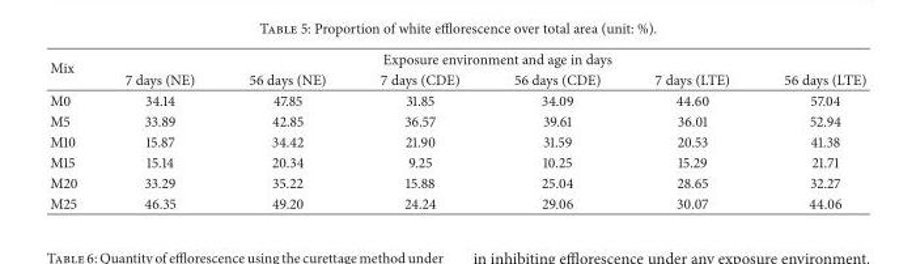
<table><thead><tr><td rowspan="2">Mix</td><td colspan="6">Exposure environment and age in days</td></tr><tr><td>7 days (NE)</td><td>56 days (NE)</td><td>7 days (CDE)</td><td>56 days (CDE)</td><td>7 days (LTE)</td><td>56 days (LTE)</td></tr></thead><tbody><tr><td>M0</td><td>34.14</td><td>47.85</td><td>31.85</td><td>34.09</td><td>44.60</td><td>57.04</td></tr><tr><td>M5</td><td>33.89</td><td>42.85</td><td>36.57</td><td>39.61</td><td>36.01</td><td>52.94</td></tr><tr><td>M10</td><td>15.87</td><td>34.42</td><td>21.90</td><td>31.59</td><td>20.53</td><td>41.38</td></tr><tr><td>M15</td><td>15.14</td><td>20.34</td><td>9.25</td><td>10.25</td><td>15.29</td><td>21.71</td></tr><tr><td>M20</td><td>33.29</td><td>35.22</td><td>15.88</td><td>25.04</td><td>28.65</td><td>32.27</td></tr><tr><td>M25</td><td>46.35</td><td>49.20</td><td>24.24</td><td>29.06</td><td>30.07</td><td>44.06</td></tr></tbody></table>